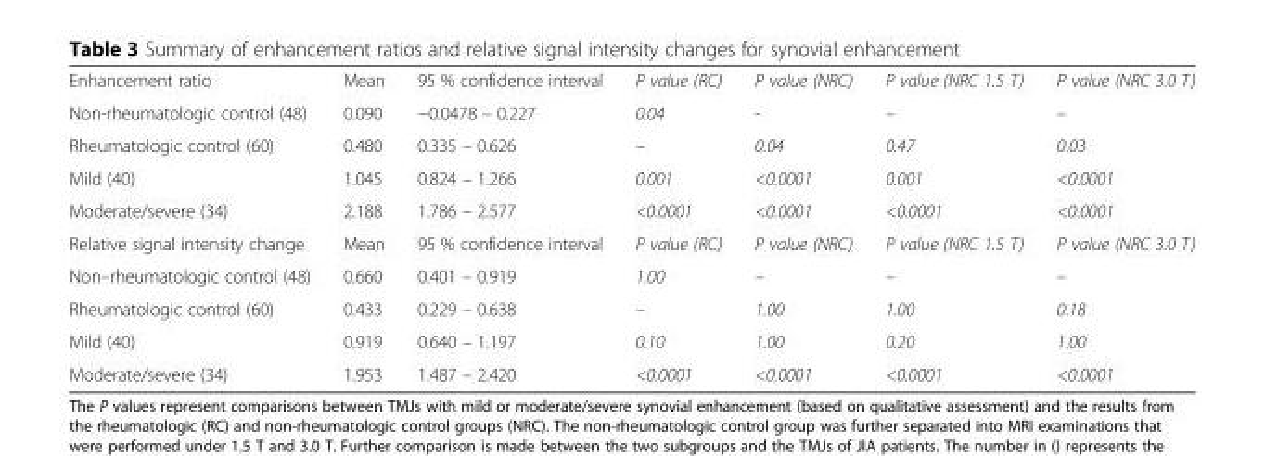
<table><tbody><tr><td>Enhancement ratio</td><td>Mean</td><td>95 % confidence interval</td><td>P value (RC)</td><td>P value (NRC)</td><td>P value (NRC 1.5 T)</td><td>P value (NRC 3.0 T)</td></tr><tr><td>Non-rheumatologic control (48)</td><td>0.090</td><td>−0.0478 – 0.227</td><td>0.04</td><td>-</td><td>–</td><td>–</td></tr><tr><td>Rheumatologic control (60)</td><td>0.480</td><td>0.335 – 0.626</td><td>–</td><td>0.04</td><td>0.47</td><td>0.03</td></tr><tr><td>Mild (40)</td><td>1.045</td><td>0.824 – 1.266</td><td>0.001</td><td>&lt;0.0001</td><td>0.001</td><td>&lt;0.0001</td></tr><tr><td>Moderate/severe (34)</td><td>2.188</td><td>1.786 – 2.577</td><td>&lt;0.0001</td><td>&lt;0.0001</td><td>&lt;0.0001</td><td>&lt;0.0001</td></tr><tr><td>Relative signal intensity change</td><td>Mean</td><td>95 % confidence interval</td><td>P value (RC)</td><td>P value (NRC)</td><td>P value (NRC 1.5 T)</td><td>P value (NRC 3.0 T)</td></tr><tr><td>Non–rheumatologic control (48)</td><td>0.660</td><td>0.401 – 0.919</td><td>1.00</td><td>–</td><td>–</td><td>–</td></tr><tr><td>Rheumatologic control (60)</td><td>0.433</td><td>0.229 – 0.638</td><td>–</td><td>1.00</td><td>1.00</td><td>0.18</td></tr><tr><td>Mild (40)</td><td>0.919</td><td>0.640 – 1.197</td><td>0.10</td><td>1.00</td><td>0.20</td><td>1.00</td></tr><tr><td>Moderate/severe (34)</td><td>1.953</td><td>1.487 – 2.420</td><td>&lt;0.0001</td><td>&lt;0.0001</td><td>&lt;0.0001</td><td>&lt;0.0001</td></tr></tbody></table>